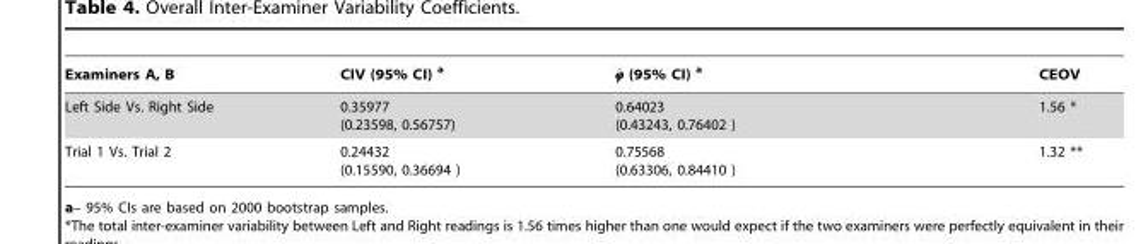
<table><thead><tr><td>Examiners A, B</td><td>CIV (95% CI) a</td><td>^Q (95% CI) a</td><td>CEOV</td></tr></thead><tbody><tr><td>Left Side Vs. Right Side</td><td>0.35977 (0.23598, 0.56757)</td><td>0.64023 (0.43243, 0.76402 )</td><td>1.56 *</td></tr><tr><td>Trial 1 Vs. Trial 2</td><td>0.24432 (0.15590, 0.36694 )</td><td>0.75568 (0.63306, 0.84410 )</td><td>1.32 **</td></tr></tbody></table>